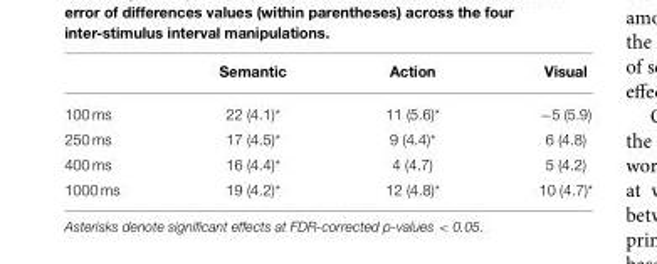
<table><thead><tr><td></td><td>Semantic</td><td>Action</td><td>Visual</td></tr></thead><tbody><tr><td>100 ms</td><td>22 (4.1)*</td><td>11 (5.6)*</td><td>−5 (5.9)</td></tr><tr><td>250 ms</td><td>17 (4.5)*</td><td>9 (4.4)*</td><td>6 (4.8)</td></tr><tr><td>400 ms</td><td>16 (4.4)*</td><td>4 (4.7)</td><td>5 (4.2)</td></tr><tr><td>1000 ms</td><td>19 (4.2)*</td><td>12 (4.8)*</td><td>10 (4.7)*</td></tr></tbody></table>